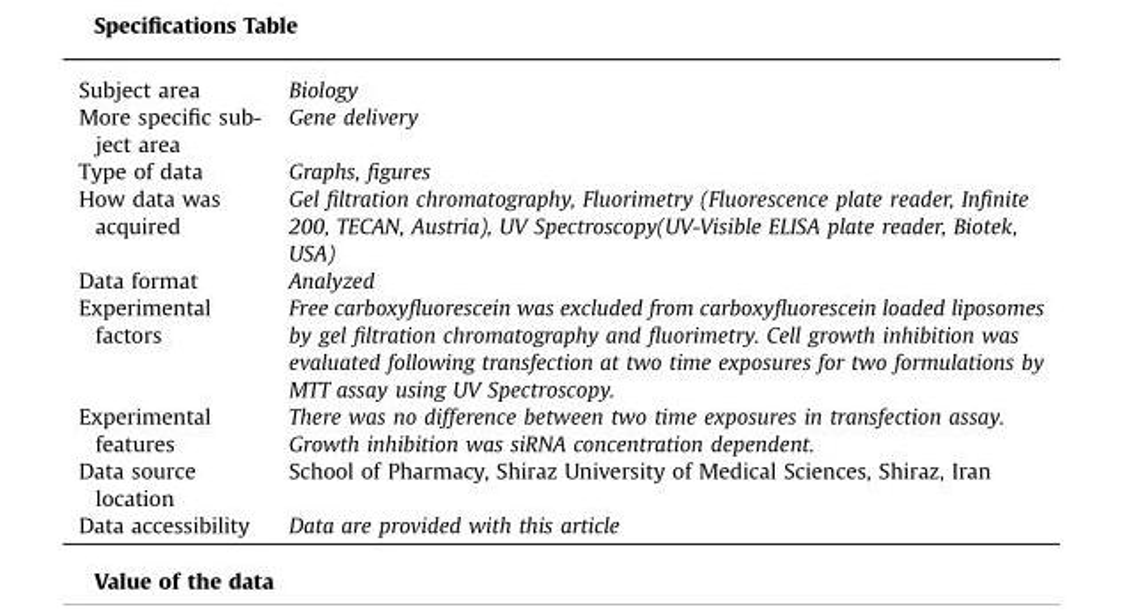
<table><tbody><tr><td>Subject area</td><td>Biology</td></tr><tr><td>More specific sub- ject area</td><td>Gene delivery</td></tr><tr><td>Type of data</td><td>Graphs, figures</td></tr><tr><td>How data was acquired</td><td>Gel filtration chromatography, Fluorimetry (Fluorescence plate reader, Infinite 200, TECAN, Austria), UV Spectroscopy(UV-Visible ELISA plate reader, Biotek, USA)</td></tr><tr><td>Data format</td><td>Analyzed</td></tr><tr><td>Experimental factors</td><td>Free carboxyfluorescein was excluded from carboxyfluorescein loaded liposomes by gel filtration chromatography and fluorimetry. Cell growth inhibition was evaluated following transfection at two time exposures for two formulations by MTT assay using UV Spectroscopy.</td></tr><tr><td>Experimental features</td><td>There was no difference between two time exposures in transfection assay. Growth inhibition was siRNA concentration dependent.</td></tr><tr><td>Data source location</td><td>School of Pharmacy, Shiraz University of Medical Sciences, Shiraz, Iran</td></tr><tr><td>Data accessibility</td><td>Data are provided with this article</td></tr></tbody></table>